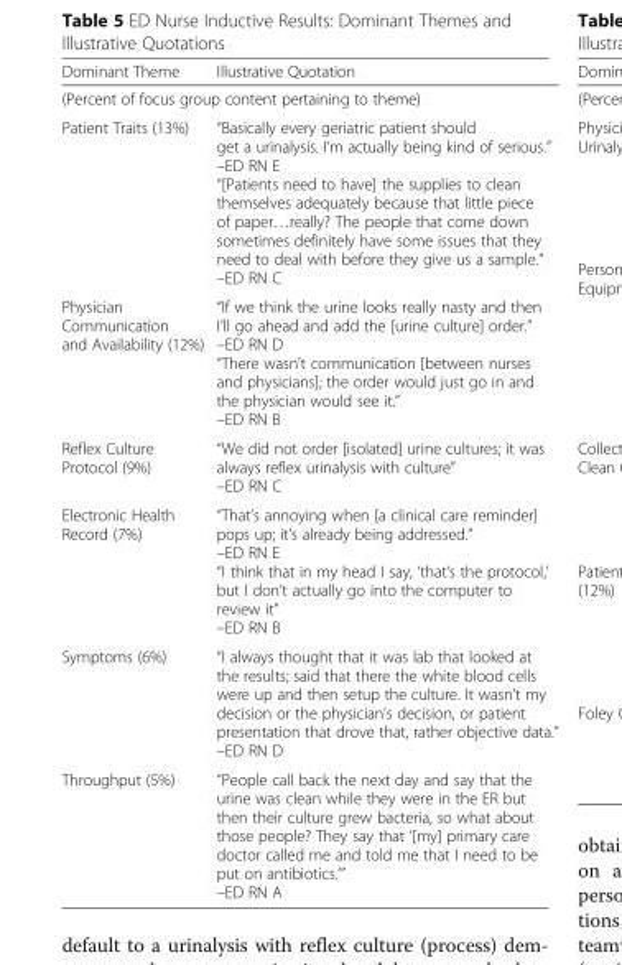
<table><thead><tr><td>Dominant Theme</td><td>Illustrative Quotation</td></tr></thead><tbody><tr><td colspan="2">(Percent of focus group content pertaining to theme)</td></tr><tr><td>Patient Traits (13%)</td><td>“Basically every geriatric patient should get a urinalysis. I’m actually being kind of serious.” –ED RN E “[Patients need to have] the supplies to clean themselves adequately because that little piece of paper…really? The people that come down sometimes definitely have some issues that they need to deal with before they give us a sample.” –ED RN C</td></tr><tr><td>Physician Communication and Availability (12%)</td><td>“If we think the urine looks really nasty and then I’ll go ahead and add the [urine culture] order.” –ED RN D “There wasn’t communication [between nurses and physicians]; the order would just go in and the physician would see it.” –ED RN B</td></tr><tr><td>Reflex Culture Protocol (9%)</td><td>“We did not order [isolated] urine cultures; it was always reflex urinalysis with culture” –ED RN C</td></tr><tr><td>Electronic Health Record (7%)</td><td>“That’s annoying when [a clinical care reminder] pops up; it’s already being addressed.” –ED RN E “I think that in my head I say, ‘that’s the protocol,’ but I don’t actually go into the computer to review it” –ED RN B</td></tr><tr><td>Symptoms (6%)</td><td>“I always thought that it was lab that looked at the results; said that there the white blood cells were up and then setup the culture. It wasn’t my decision or the physician’s decision, or patient presentation that drove that, rather objective data.” –ED RN D</td></tr><tr><td>Throughput (5%)</td><td>“People call back the next day and say that the urine was clean while they were in the ER but then their culture grew bacteria, so what about those people? They say that ‘[my] primary care doctor called me and told me that I need to be put on antibiotics.’” –ED RN A</td></tr></tbody></table>